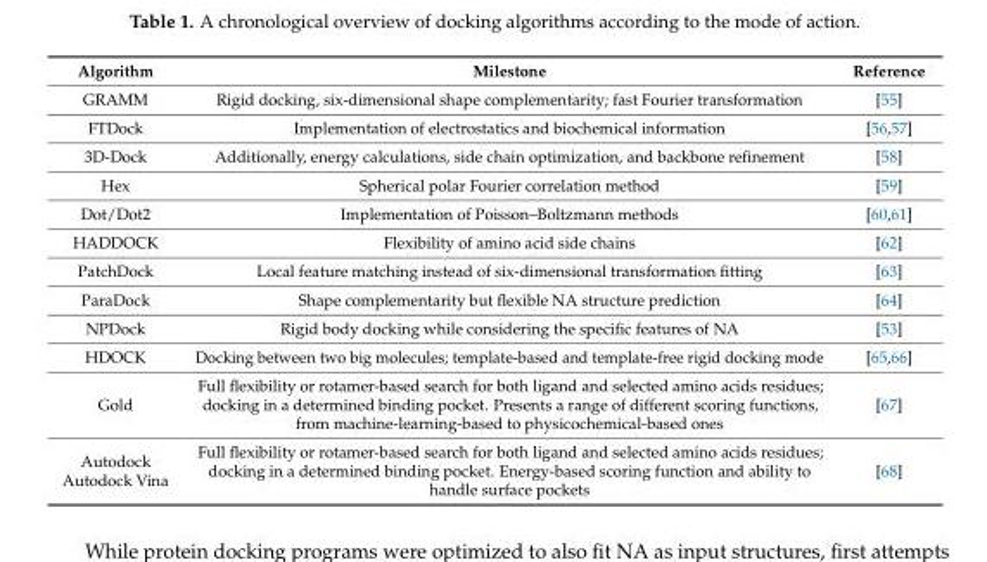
<table><thead><tr><td>Algorithm</td><td>Milestone</td><td>Reference</td></tr></thead><tbody><tr><td>GRAMM</td><td>Rigid docking, six-dimensional shape complementarity; fast Fourier transformation</td><td>[55]</td></tr><tr><td>FTDock</td><td>Implementation of electrostatics and biochemical information</td><td>[56,57]</td></tr><tr><td>3D-Dock</td><td>Additionally, energy calculations, side chain optimization, and backbone refinement</td><td>[58]</td></tr><tr><td>Hex</td><td>Spherical polar Fourier correlation method</td><td>[59]</td></tr><tr><td>Dot/Dot2</td><td>Implementation of Poisson–Boltzmann methods</td><td>[60,61]</td></tr><tr><td>HADDOCK</td><td>Flexibility of amino acid side chains</td><td>[62]</td></tr><tr><td>PatchDock</td><td>Local feature matching instead of six-dimensional transformation fitting</td><td>[63]</td></tr><tr><td>ParaDock</td><td>Shape complementarity but flexible NA structure prediction</td><td>[64]</td></tr><tr><td>NPDock</td><td>Rigid body docking while considering the specific features of NA</td><td>[53]</td></tr><tr><td>HDOCK</td><td>Docking between two big molecules; template-based and template-free rigid docking mode</td><td>[65,66]</td></tr><tr><td>Gold</td><td>Full flexibility or rotamer-based search for both ligand and selected amino acids residues; docking in a determined binding pocket. Presents a range of different scoring functions, from machine-learning-based to physicochemical-based ones</td><td>[67]</td></tr><tr><td>Autodock Autodock Vina</td><td>Full flexibility or rotamer-based search for both ligand and selected amino acids residues; docking in a determined binding pocket. Energy-based scoring function and ability to handle surface pockets</td><td>[68]</td></tr></tbody></table>